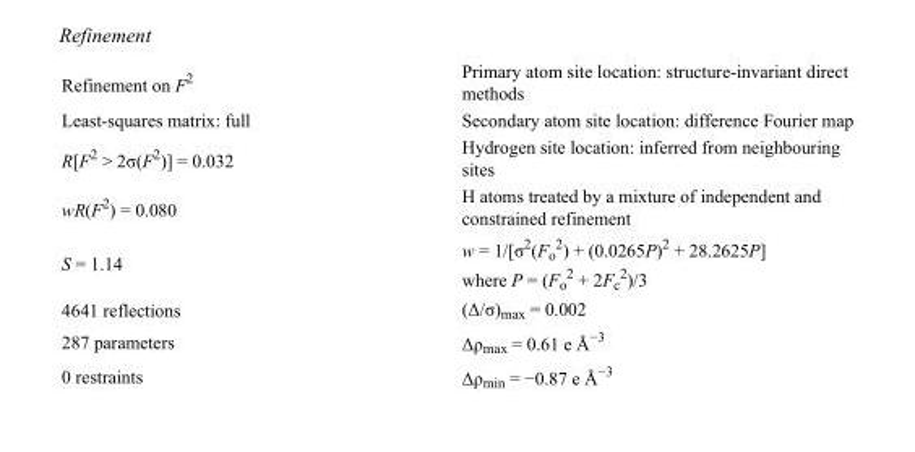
<table><tbody><tr><td>Refinement on F<sup>2</sup></td><td>Primary atom site location: structure-invariant direct methods</td></tr><tr><td>Least-squares matrix: full</td><td>Secondary atom site location: difference Fourier map</td></tr><tr><td>R[F<sup>2</sup> &gt; 2σ(F<sup>2</sup>)] = 0.032</td><td>Hydrogen site location: inferred from neighbouring sites</td></tr><tr><td>wR(F<sup>2</sup>) = 0.080</td><td>H atoms treated by a mixture of independent and constrained refinement</td></tr><tr><td>S = 1.14</td><td>w = 1/[σ<sup>2</sup>(F<sub>o</sub> <sup>2</sup>) + (0.0265P)<sup>2</sup> + 28.2625P] where P = (F<sub>o</sub> <sup>2</sup> + 2F<sub>c</sub> <sup>2</sup>)/3</td></tr><tr><td>4641 reflections</td><td>(Δ/σ)<sub>max</sub> = 0.002</td></tr><tr><td>287 parameters</td><td>Δρ<sub>max</sub> = 0.61 e Å<sup>−3</sup></td></tr><tr><td>0 restraints</td><td>Δρ<sub>min</sub> = −0.87 e Å<sup>−3</sup></td></tr></tbody></table>